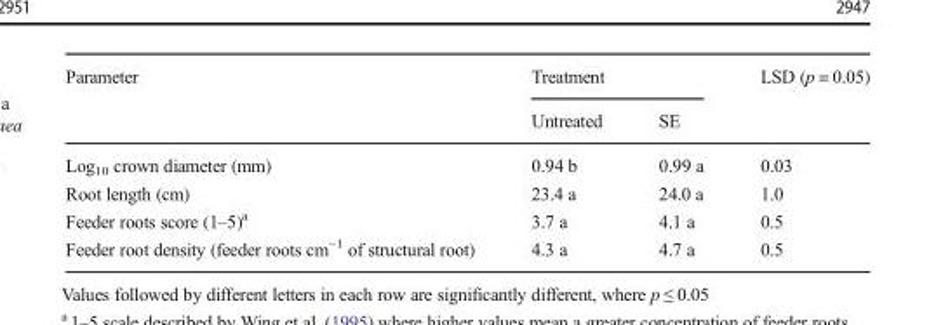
<table><thead><tr><td rowspan="2">Parameter</td><td colspan="2">Treatment</td><td rowspan="2">LSD (p = 0.05)</td></tr><tr><td>Untreated</td><td>SE</td></tr></thead><tbody><tr><td>Log<sub>10</sub> crown diameter (mm)</td><td>0.94 b</td><td>0.99 a</td><td>0.03</td></tr><tr><td>Root length (cm)</td><td>23.4 a</td><td>24.0 a</td><td>1.0</td></tr><tr><td>Feeder roots score (1–5)<sup>a</sup></td><td>3.7 a</td><td>4.1 a</td><td>0.5</td></tr><tr><td>Feeder root density (feeder roots cm<sup>−1</sup> of structural root)</td><td>4.3 a</td><td>4.7 a</td><td>0.5</td></tr></tbody></table>